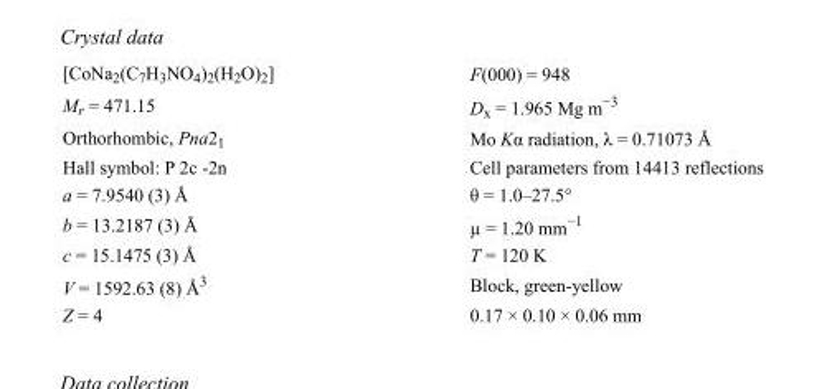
<table><tbody><tr><td>[CoNa<sub>2</sub>(C<sub>7</sub>H<sub>3</sub>NO<sub>4</sub>)<sub>2</sub>(H<sub>2</sub>O)<sub>2</sub>]</td><td>F(000) = 948</td></tr><tr><td>M<sub>r</sub> = 471.15</td><td>D<sub>x</sub> = 1.965 Mg m<sup>−3</sup></td></tr><tr><td>Orthorhombic, Pna2<sub>1</sub></td><td>Mo Kα radiation, λ = 0.71073 Å</td></tr><tr><td>Hall symbol: P 2c -2n</td><td>Cell parameters from 14413 reflections</td></tr><tr><td>a = 7.9540 (3) Å</td><td>θ = 1.0–27.5°</td></tr><tr><td>b = 13.2187 (3) Å</td><td>µ = 1.20 mm<sup>−1</sup></td></tr><tr><td>c = 15.1475 (3) Å</td><td>T = 120 K</td></tr><tr><td>V = 1592.63 (8) Å<sup>3</sup></td><td>Block, green-yellow</td></tr><tr><td>Z = 4</td><td>0.17 × 0.10 × 0.06 mm</td></tr></tbody></table>